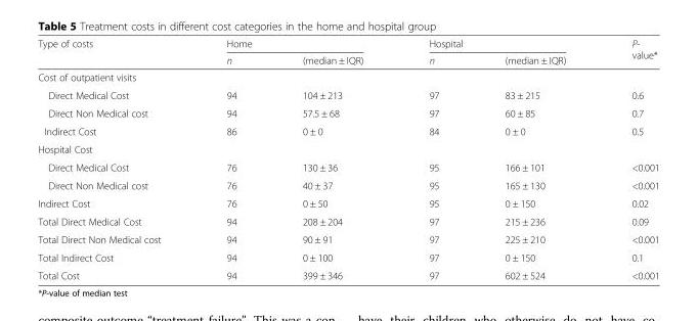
<table><thead><tr><td rowspan="2">Type of costs</td><td colspan="2">Home</td><td colspan="2">Hospital</td><td rowspan="2">P- value*</td></tr><tr><td>n</td><td>(median ± IQR)</td><td>n</td><td>(median ± IQR)</td></tr></thead><tbody><tr><td colspan="6">Cost of outpatient visits</td></tr><tr><td>Direct Medical Cost</td><td>94</td><td>104 ± 213</td><td>97</td><td>83 ± 215</td><td>0.6</td></tr><tr><td>Direct Non Medical cost</td><td>94</td><td>57.5 ± 68</td><td>97</td><td>60 ± 85</td><td>0.7</td></tr><tr><td>Indirect Cost</td><td>86</td><td>0 ± 0</td><td>84</td><td>0 ± 0</td><td>0.5</td></tr><tr><td colspan="6">Hospital Cost</td></tr><tr><td>Direct Medical Cost</td><td>76</td><td>130 ± 36</td><td>95</td><td>166 ± 101</td><td>&lt;0.001</td></tr><tr><td>Direct Non Medical cost</td><td>76</td><td>40 ± 37</td><td>95</td><td>165 ± 130</td><td>&lt;0.001</td></tr><tr><td>Indirect Cost</td><td>76</td><td>0 ± 50</td><td>95</td><td>0 ± 150</td><td>0.02</td></tr><tr><td>Total Direct Medical Cost</td><td>94</td><td>208 ± 204</td><td>97</td><td>215 ± 236</td><td>0.09</td></tr><tr><td>Total Direct Non Medical cost</td><td>94</td><td>90 ± 91</td><td>97</td><td>225 ± 210</td><td>&lt;0.001</td></tr><tr><td>Total Indirect Cost</td><td>94</td><td>0 ± 100</td><td>97</td><td>0 ± 150</td><td>0.1</td></tr><tr><td>Total Cost</td><td>94</td><td>399 ± 346</td><td>97</td><td>602 ± 524</td><td>&lt;0.001</td></tr></tbody></table>